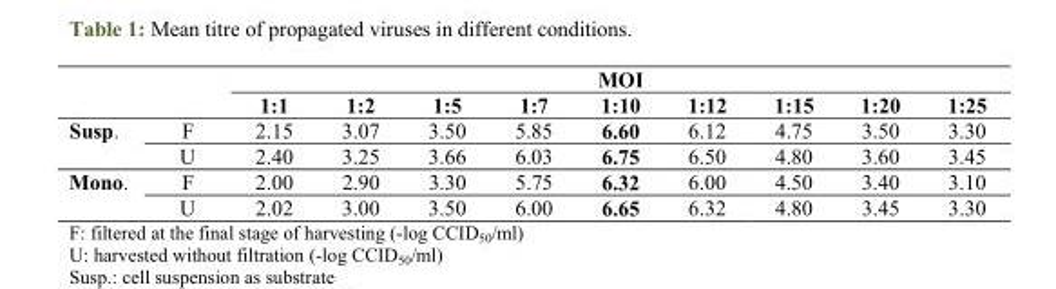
<table><thead><tr><td rowspan="2"></td><td rowspan="2"></td><td colspan="9">MOI</td></tr><tr><td>1:1</td><td>1:2</td><td>1:5</td><td>1:7</td><td>1:10</td><td>1:12</td><td>1:15</td><td>1:20</td><td>1:25</td></tr></thead><tbody><tr><td rowspan="2">Susp.</td><td>F</td><td>2.15</td><td>3.07</td><td>3.50</td><td>5.85</td><td>6.60</td><td>6.12</td><td>4.75</td><td>3.50</td><td>3.30</td></tr><tr><td>U</td><td>2.40</td><td>3.25</td><td>3.66</td><td>6.03</td><td>6.75</td><td>6.50</td><td>4.80</td><td>3.60</td><td>3.45</td></tr><tr><td rowspan="2">Mono.</td><td>F</td><td>2.00</td><td>2.90</td><td>3.30</td><td>5.75</td><td>6.32</td><td>6.00</td><td>4.50</td><td>3.40</td><td>3.10</td></tr><tr><td>U</td><td>2.02</td><td>3.00</td><td>3.50</td><td>6.00</td><td>6.65</td><td>6.32</td><td>4.80</td><td>3.45</td><td>3.30</td></tr></tbody></table>